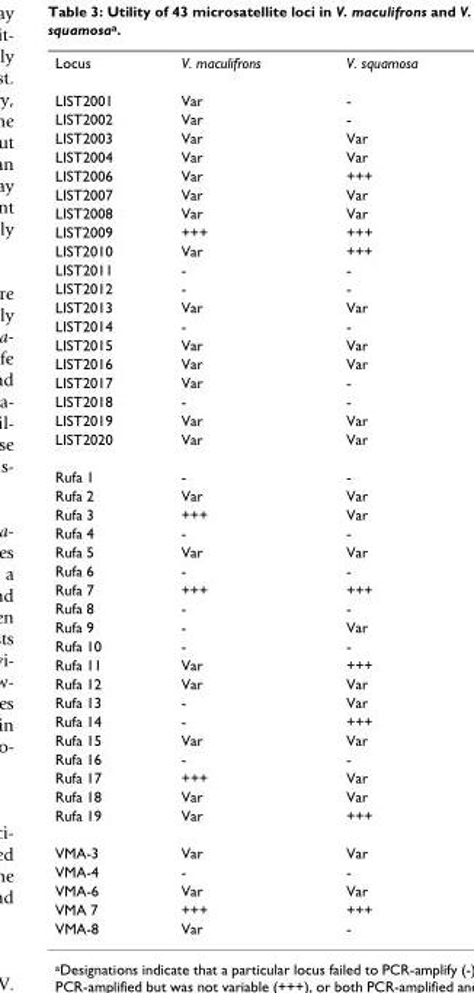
<table><tbody><tr><td>Locus</td><td>V. maculifrons</td><td>V. squamosa</td></tr><tr><td>LIST2001</td><td>Var</td><td>-</td></tr><tr><td>LIST2002</td><td>Var</td><td>-</td></tr><tr><td>LIST2003</td><td>Var</td><td>Var</td></tr><tr><td>LIST2004</td><td>Var</td><td>Var</td></tr><tr><td>LIST2006</td><td>Var</td><td>+++</td></tr><tr><td>LIST2007</td><td>Var</td><td>Var</td></tr><tr><td>LIST2008</td><td>Var</td><td>Var</td></tr><tr><td>LIST2009</td><td>+++</td><td>+++</td></tr><tr><td>LIST2010</td><td>Var</td><td>+++</td></tr><tr><td>LIST2011</td><td>-</td><td>-</td></tr><tr><td>LIST2012</td><td>-</td><td>-</td></tr><tr><td>LIST2013</td><td>Var</td><td>Var</td></tr><tr><td>LIST2014</td><td>-</td><td>-</td></tr><tr><td>LIST2015</td><td>Var</td><td>Var</td></tr><tr><td>LIST2016</td><td>Var</td><td>Var</td></tr><tr><td>LIST2017</td><td>Var</td><td>-</td></tr><tr><td>LIST2018</td><td>-</td><td>-</td></tr><tr><td>LIST2019</td><td>Var</td><td>Var</td></tr><tr><td>LIST2020</td><td>Var</td><td>Var</td></tr><tr><td>Rufa 1</td><td>-</td><td>-</td></tr><tr><td>Rufa 2</td><td>Var</td><td>Var</td></tr><tr><td>Rufa 3</td><td>+++</td><td>Var</td></tr><tr><td>Rufa 4</td><td>-</td><td>-</td></tr><tr><td>Rufa 5</td><td>Var</td><td>Var</td></tr><tr><td>Rufa 6</td><td>-</td><td>-</td></tr><tr><td>Rufa 7</td><td>+++</td><td>+++</td></tr><tr><td>Rufa 8</td><td>-</td><td>-</td></tr><tr><td>Rufa 9</td><td>-</td><td>Var</td></tr><tr><td>Rufa 10</td><td>-</td><td>-</td></tr><tr><td>Rufa 11</td><td>Var</td><td>+++</td></tr><tr><td>Rufa 12</td><td>Var</td><td>Var</td></tr><tr><td>Rufa 13</td><td>-</td><td>Var</td></tr><tr><td>Rufa 14</td><td>-</td><td>+++</td></tr><tr><td>Rufa 15</td><td>Var</td><td>Var</td></tr><tr><td>Rufa 16</td><td>-</td><td>-</td></tr><tr><td>Rufa 17</td><td>+++</td><td>Var</td></tr><tr><td>Rufa 18</td><td>Var</td><td>Var</td></tr><tr><td>Rufa 19</td><td>Var</td><td>+++</td></tr><tr><td>VMA-3</td><td>Var</td><td>Var</td></tr><tr><td>VMA-4</td><td>-</td><td>-</td></tr><tr><td>VMA-6</td><td>Var</td><td>Var</td></tr><tr><td>VMA 7</td><td>+++</td><td>+++</td></tr><tr><td>VMA-8</td><td>Var</td><td>-</td></tr></tbody></table>